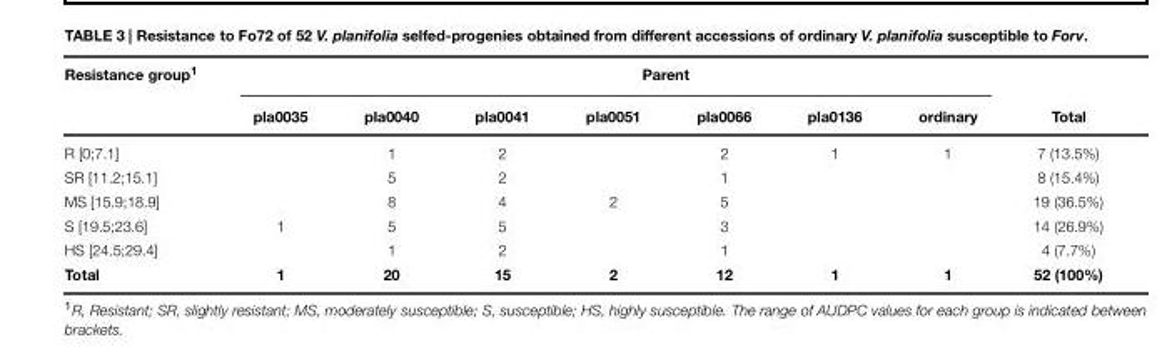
<table><thead><tr><td rowspan="2">Resistance group<sup>1</sup></td><td colspan="8">Parent</td></tr><tr><td>pla0035</td><td>pla0040</td><td>pla0041</td><td>pla0051</td><td>pla0066</td><td>pla0136</td><td>ordinary</td><td>Total</td></tr></thead><tbody><tr><td>R [0;7.1]</td><td></td><td>1</td><td>2</td><td></td><td>2</td><td>1</td><td>1</td><td>7 (13.5%)</td></tr><tr><td>SR [11.2;15.1]</td><td></td><td>5</td><td>2</td><td></td><td>1</td><td></td><td></td><td>8 (15.4%)</td></tr><tr><td>MS [15.9;18.9]</td><td></td><td>8</td><td>4</td><td>2</td><td>5</td><td></td><td></td><td>19 (36.5%)</td></tr><tr><td>S [19.5;23.6]</td><td>1</td><td>5</td><td>5</td><td></td><td>3</td><td></td><td></td><td>14 (26.9%)</td></tr><tr><td>HS [24.5;29.4]</td><td></td><td>1</td><td>2</td><td></td><td>1</td><td></td><td></td><td>4 (7.7%)</td></tr><tr><td>Total</td><td>1</td><td>20</td><td>15</td><td>2</td><td>12</td><td>1</td><td>1</td><td>52 (100%)</td></tr></tbody></table>